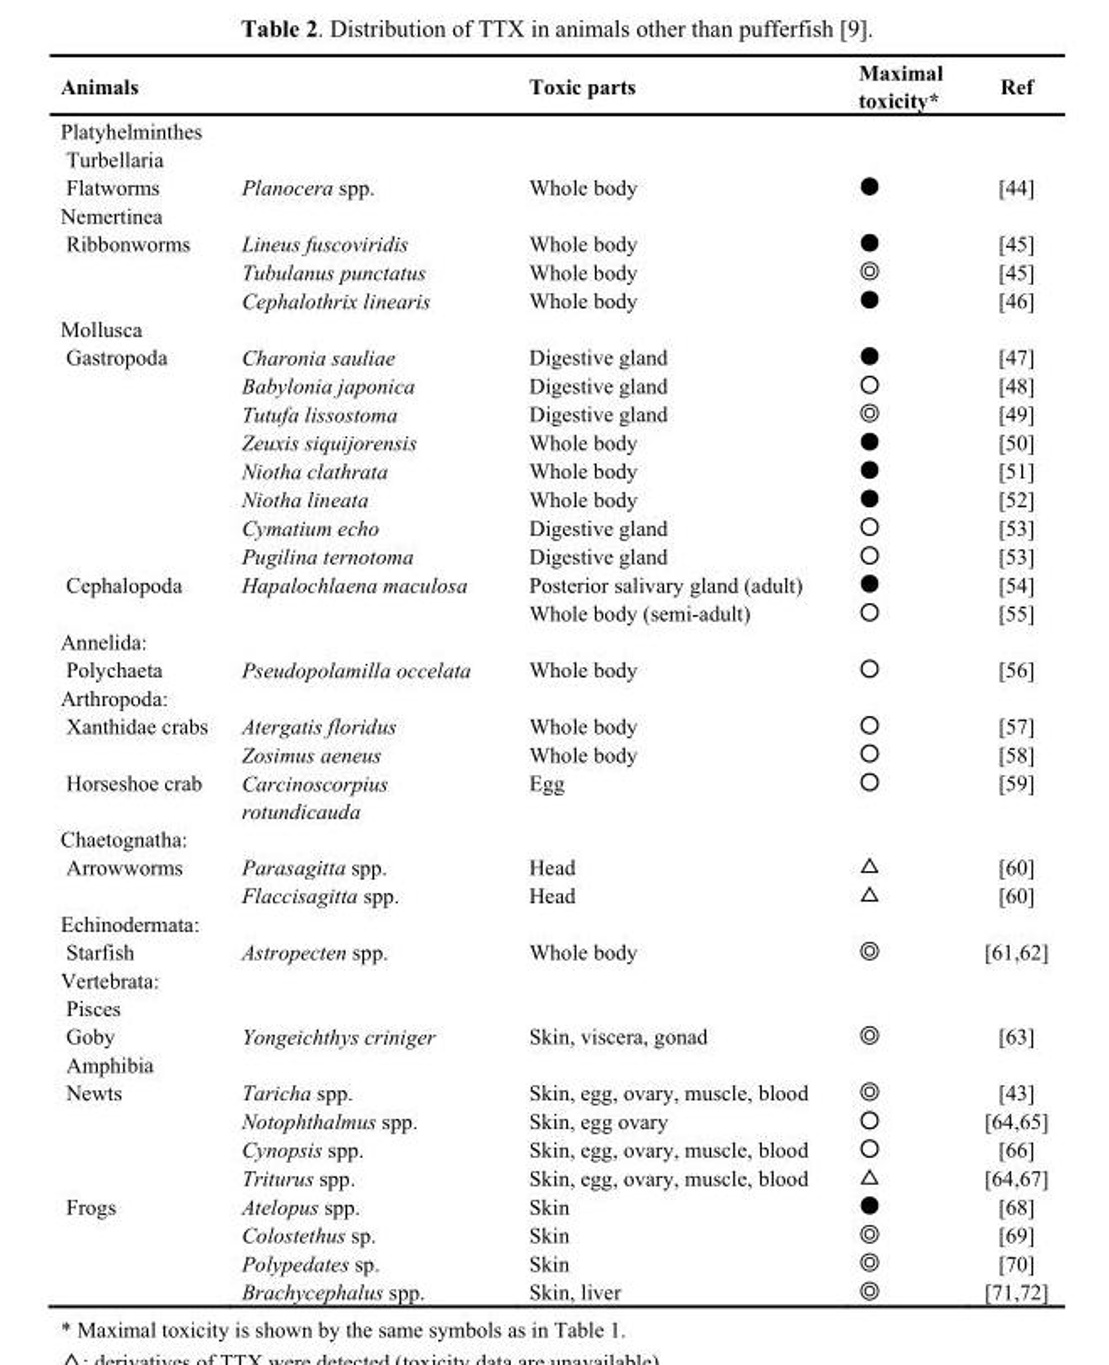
<table><thead><tr><td>Animals</td><td></td><td>Toxic parts</td><td>Maximal toxicity*</td><td>Ref</td></tr></thead><tbody><tr><td colspan="5">Platyhelminthes</td></tr><tr><td colspan="5">Turbellaria</td></tr><tr><td>Flatworms</td><td>Planocera spp.</td><td>Whole body</td><td>●</td><td>[44]</td></tr><tr><td colspan="5">Nemertinea</td></tr><tr><td rowspan="3">Ribbonworms</td><td>Lineus fuscoviridis</td><td>Whole body</td><td>●</td><td>[45]</td></tr><tr><td>Tubulanus punctatus</td><td>Whole body</td><td>◎</td><td>[45]</td></tr><tr><td>Cephalothrix linearis</td><td>Whole body</td><td>●</td><td>[46]</td></tr><tr><td colspan="5">Mollusca</td></tr><tr><td rowspan="8">Gastropoda</td><td>Charonia sauliae</td><td>Digestive gland</td><td>●</td><td>[47]</td></tr><tr><td>Babylonia japonica</td><td>Digestive gland</td><td>○</td><td>[48]</td></tr><tr><td>Tutufa lissostoma</td><td>Digestive gland</td><td>◎</td><td>[49]</td></tr><tr><td>Zeuxis siquijorensis</td><td>Whole body</td><td>●</td><td>[50]</td></tr><tr><td>Niotha clathrata</td><td>Whole body</td><td>●</td><td>[51]</td></tr><tr><td>Niotha lineata</td><td>Whole body</td><td>●</td><td>[52]</td></tr><tr><td>Cymatium echo</td><td>Digestive gland</td><td>○</td><td>[53]</td></tr><tr><td>Pugilina ternotoma</td><td>Digestive gland</td><td>○</td><td>[53]</td></tr><tr><td rowspan="2">Cephalopoda</td><td>Hapalochlaena maculosa</td><td>Posterior salivary gland (adult)</td><td>●</td><td>[54]</td></tr><tr><td></td><td>Whole body (semi-adult)</td><td>○</td><td>[55]</td></tr><tr><td colspan="5">Annelida:</td></tr><tr><td>Polychaeta</td><td>Pseudopolamilla occelata</td><td>Whole body</td><td>○</td><td>[56]</td></tr><tr><td colspan="5">Arthropoda:</td></tr><tr><td rowspan="2">Xanthidae crabs</td><td>Atergatis floridus</td><td>Whole body</td><td>○</td><td>[57]</td></tr><tr><td>Zosimus aeneus</td><td>Whole body</td><td>○</td><td>[58]</td></tr><tr><td>Horseshoe crab</td><td>Carcinoscorpius rotundicauda</td><td>Egg</td><td>○</td><td>[59]</td></tr><tr><td colspan="5">Chaetognatha:</td></tr><tr><td rowspan="2">Arrowworms</td><td>Parasagitta spp.</td><td>Head</td><td>△</td><td>[60]</td></tr><tr><td>Flaccisagitta spp.</td><td>Head</td><td>△</td><td>[60]</td></tr><tr><td colspan="5">Echinodermata:</td></tr><tr><td>Starfish</td><td>Astropecten spp.</td><td>Whole body</td><td>◎</td><td>[61,62]</td></tr><tr><td colspan="5">Vertebrata:</td></tr><tr><td colspan="5">Pisces</td></tr><tr><td>Goby</td><td>Yongeichthys criniger</td><td>Skin, viscera, gonad</td><td>◎</td><td>[63]</td></tr><tr><td colspan="5">Amphibia</td></tr><tr><td rowspan="4">Newts</td><td>Taricha spp.</td><td>Skin, egg, ovary, muscle, blood</td><td>◎</td><td>[43]</td></tr><tr><td>Notophthalmus spp.</td><td>Skin, egg ovary</td><td>○</td><td>[64,65]</td></tr><tr><td>Cynopsis spp.</td><td>Skin, egg, ovary, muscle, blood</td><td>○</td><td>[66]</td></tr><tr><td>Triturus spp.</td><td>Skin, egg, ovary, muscle, blood</td><td>△</td><td>[64,67]</td></tr><tr><td rowspan="4">Frogs</td><td>Atelopus spp.</td><td>Skin</td><td>●</td><td>[68]</td></tr><tr><td>Colostethus sp.</td><td>Skin</td><td>◎</td><td>[69]</td></tr><tr><td>Polypedates sp.</td><td>Skin</td><td>◎</td><td>[70]</td></tr><tr><td>Brachycephalus spp.</td><td>Skin, liver</td><td>◎</td><td>[71,72]</td></tr></tbody></table>